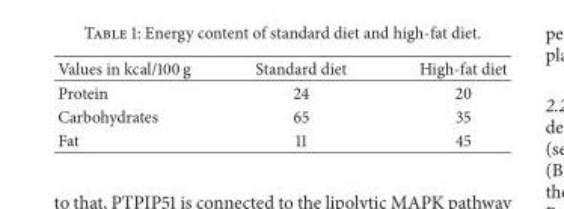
<table><thead><tr><td>Values in kcal/100 g</td><td>Standard diet</td><td>High-fat diet</td></tr></thead><tbody><tr><td>Protein</td><td>24</td><td>20</td></tr><tr><td>Carbohydrates</td><td>65</td><td>35</td></tr><tr><td>Fat</td><td>11</td><td>45</td></tr></tbody></table>